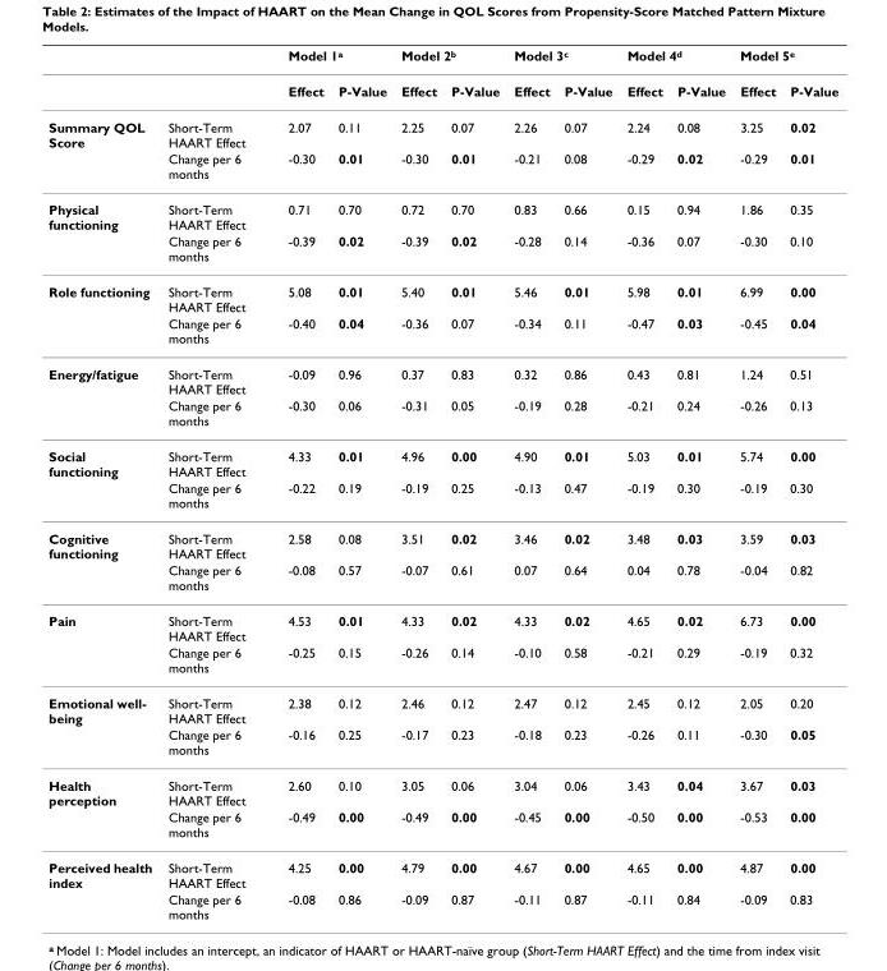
<table><thead><tr><td rowspan="2"></td><td rowspan="2"></td><td colspan="2">Model 1a</td><td colspan="2">Model 2b</td><td colspan="2">Model 3c</td><td colspan="2">Model 4d</td><td colspan="2">Model 5e</td></tr><tr><td>Effect</td><td>P-Value</td><td>Effect</td><td>P-Value</td><td>Effect</td><td>P-Value</td><td>Effect</td><td>P-Value</td><td>Effect</td><td>P-Value</td></tr></thead><tbody><tr><td rowspan="2">Summary QOL Score</td><td>Short-Term HAART Effect</td><td>2.07</td><td>0.11</td><td>2.25</td><td>0.07</td><td>2.26</td><td>0.07</td><td>2.24</td><td>0.08</td><td>3.25</td><td>0.02</td></tr><tr><td>Change per 6 months</td><td>-0.30</td><td>0.01</td><td>-0.30</td><td>0.01</td><td>-0.21</td><td>0.08</td><td>-0.29</td><td>0.02</td><td>-0.29</td><td>0.01</td></tr><tr><td rowspan="2">Physical functioning</td><td>Short-Term HAART Effect</td><td>0.71</td><td>0.70</td><td>0.72</td><td>0.70</td><td>0.83</td><td>0.66</td><td>0.15</td><td>0.94</td><td>1.86</td><td>0.35</td></tr><tr><td>Change per 6 months</td><td>-0.39</td><td>0.02</td><td>-0.39</td><td>0.02</td><td>-0.28</td><td>0.14</td><td>-0.36</td><td>0.07</td><td>-0.30</td><td>0.10</td></tr><tr><td rowspan="2">Role functioning</td><td>Short-Term HAART Effect</td><td>5.08</td><td>0.01</td><td>5.40</td><td>0.01</td><td>5.46</td><td>0.01</td><td>5.98</td><td>0.01</td><td>6.99</td><td>0.00</td></tr><tr><td>Change per 6 months</td><td>-0.40</td><td>0.04</td><td>-0.36</td><td>0.07</td><td>-0.34</td><td>0.11</td><td>-0.47</td><td>0.03</td><td>-0.45</td><td>0.04</td></tr><tr><td rowspan="2">Energy/fatigue</td><td>Short-Term HAART Effect</td><td>-0.09</td><td>0.96</td><td>0.37</td><td>0.83</td><td>0.32</td><td>0.86</td><td>0.43</td><td>0.81</td><td>1.24</td><td>0.51</td></tr><tr><td>Change per 6 months</td><td>-0.30</td><td>0.06</td><td>-0.31</td><td>0.05</td><td>-0.19</td><td>0.28</td><td>-0.21</td><td>0.24</td><td>-0.26</td><td>0.13</td></tr><tr><td rowspan="2">Social functioning</td><td>Short-Term HAART Effect</td><td>4.33</td><td>0.01</td><td>4.96</td><td>0.00</td><td>4.90</td><td>0.01</td><td>5.03</td><td>0.01</td><td>5.74</td><td>0.00</td></tr><tr><td>Change per 6 months</td><td>-0.22</td><td>0.19</td><td>-0.19</td><td>0.25</td><td>-0.13</td><td>0.47</td><td>-0.19</td><td>0.30</td><td>-0.19</td><td>0.30</td></tr><tr><td rowspan="2">Cognitive functioning</td><td>Short-Term HAART Effect</td><td>2.58</td><td>0.08</td><td>3.51</td><td>0.02</td><td>3.46</td><td>0.02</td><td>3.48</td><td>0.03</td><td>3.59</td><td>0.03</td></tr><tr><td>Change per 6 months</td><td>-0.08</td><td>0.57</td><td>-0.07</td><td>0.61</td><td>0.07</td><td>0.64</td><td>0.04</td><td>0.78</td><td>-0.04</td><td>0.82</td></tr><tr><td rowspan="2">Pain</td><td>Short-Term HAART Effect</td><td>4.53</td><td>0.01</td><td>4.33</td><td>0.02</td><td>4.33</td><td>0.02</td><td>4.65</td><td>0.02</td><td>6.73</td><td>0.00</td></tr><tr><td>Change per 6 months</td><td>-0.25</td><td>0.15</td><td>-0.26</td><td>0.14</td><td>-0.10</td><td>0.58</td><td>-0.21</td><td>0.29</td><td>-0.19</td><td>0.32</td></tr><tr><td rowspan="2">Emotional well- being</td><td>Short-Term HAART Effect</td><td>2.38</td><td>0.12</td><td>2.46</td><td>0.12</td><td>2.47</td><td>0.12</td><td>2.45</td><td>0.12</td><td>2.05</td><td>0.20</td></tr><tr><td>Change per 6 months</td><td>-0.16</td><td>0.25</td><td>-0.17</td><td>0.23</td><td>-0.18</td><td>0.23</td><td>-0.26</td><td>0.11</td><td>-0.30</td><td>0.05</td></tr><tr><td rowspan="2">Health perception</td><td>Short-Term HAART Effect</td><td>2.60</td><td>0.10</td><td>3.05</td><td>0.06</td><td>3.04</td><td>0.06</td><td>3.43</td><td>0.04</td><td>3.67</td><td>0.03</td></tr><tr><td>Change per 6 months</td><td>-0.49</td><td>0.00</td><td>-0.49</td><td>0.00</td><td>-0.45</td><td>0.00</td><td>-0.50</td><td>0.00</td><td>-0.53</td><td>0.00</td></tr><tr><td rowspan="2">Perceived health index</td><td>Short-Term HAART Effect</td><td>4.25</td><td>0.00</td><td>4.79</td><td>0.00</td><td>4.67</td><td>0.00</td><td>4.65</td><td>0.00</td><td>4.87</td><td>0.00</td></tr><tr><td>Change per 6 months</td><td>-0.08</td><td>0.86</td><td>-0.09</td><td>0.87</td><td>-0.11</td><td>0.87</td><td>-0.11</td><td>0.84</td><td>-0.09</td><td>0.83</td></tr></tbody></table>